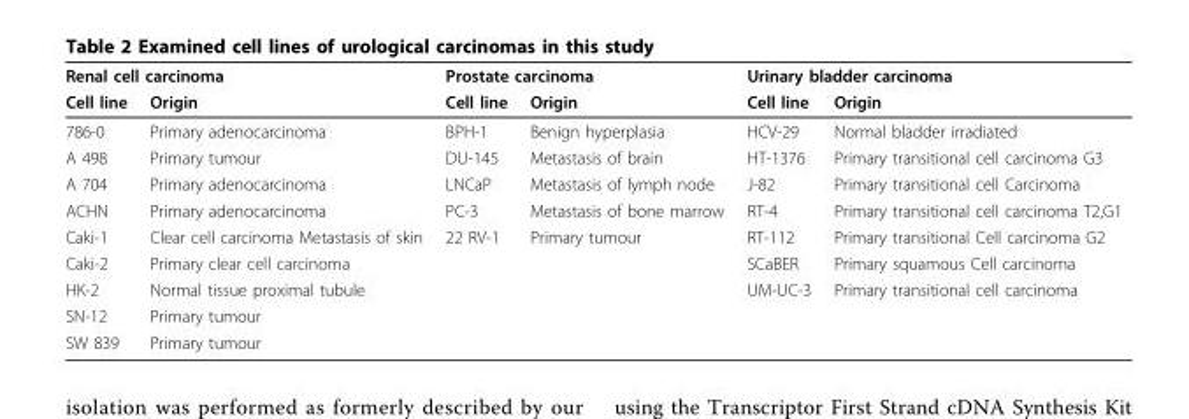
<table><thead><tr><td colspan="2">Renal cell carcinoma</td><td colspan="2">Prostate carcinoma</td><td colspan="2">Urinary bladder carcinoma</td></tr><tr><td>Cell line</td><td>Origin</td><td>Cell line</td><td>Origin</td><td>Cell line</td><td>Origin</td></tr></thead><tbody><tr><td>786-0</td><td>Primary adenocarcinoma</td><td>BPH-1</td><td>Benign hyperplasia</td><td>HCV-29</td><td>Normal bladder irradiated</td></tr><tr><td>A 498</td><td>Primary tumour</td><td>DU-145</td><td>Metastasis of brain</td><td>HT-1376</td><td>Primary transitional cell carcinoma G3</td></tr><tr><td>A 704</td><td>Primary adenocarcinoma</td><td>LNCaP</td><td>Metastasis of lymph node</td><td>J-82</td><td>Primary transitional cell Carcinoma</td></tr><tr><td>ACHN</td><td>Primary adenocarcinoma</td><td>PC-3</td><td>Metastasis of bone marrow</td><td>RT-4</td><td>Primary transitional cell carcinoma T2,G1</td></tr><tr><td>Caki-1</td><td>Clear cell carcinoma Metastasis of skin</td><td>22 RV-1</td><td>Primary tumour</td><td>RT-112</td><td>Primary transitional Cell carcinoma G2</td></tr><tr><td>Caki-2</td><td>Primary clear cell carcinoma</td><td></td><td></td><td>SCaBER</td><td>Primary squamous Cell carcinoma</td></tr><tr><td>HK-2</td><td>Normal tissue proximal tubule</td><td></td><td></td><td>UM-UC-3</td><td>Primary transitional cell carcinoma</td></tr><tr><td>SN-12</td><td>Primary tumour</td><td></td><td></td><td></td><td></td></tr><tr><td>SW 839</td><td>Primary tumour</td><td></td><td></td><td></td><td></td></tr></tbody></table>